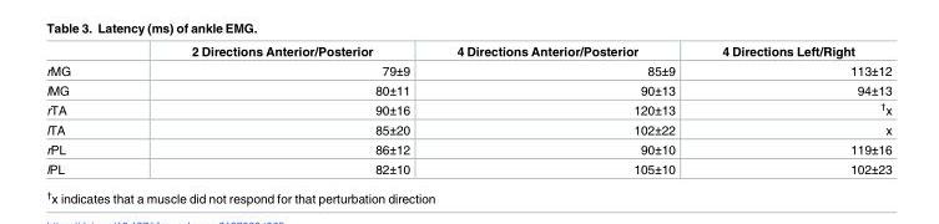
<table><thead><tr><td></td><td>2 Directions Anterior/Posterior</td><td>4 Directions Anterior/Posterior</td><td>4 Directions Left/Right</td></tr></thead><tbody><tr><td>rMG</td><td>79±9</td><td>85±9</td><td>113±12</td></tr><tr><td>lMG</td><td>80±11</td><td>90±13</td><td>94±13</td></tr><tr><td>rTA</td><td>90±16</td><td>120±13</td><td><sup>†</sup>x</td></tr><tr><td>lTA</td><td>85±20</td><td>102±22</td><td>x</td></tr><tr><td>rPL</td><td>86±12</td><td>90±10</td><td>119±16</td></tr><tr><td>lPL</td><td>82±10</td><td>105±10</td><td>102±23</td></tr></tbody></table>